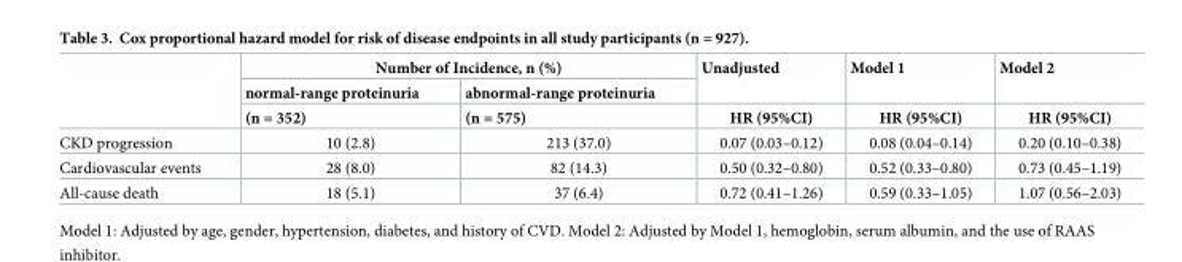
<table><thead><tr><td rowspan="3"></td><td colspan="2">Number of Incidence, n (%)</td><td rowspan="3">Unadjusted HR (95%CI)</td><td rowspan="3">Model 1 HR (95%CI)</td><td rowspan="3">Model 2 HR (95%CI)</td></tr><tr><td rowspan="2">normal-range proteinuria (n = 352)</td><td rowspan="2">abnormal-range proteinuria (n = 575)</td></tr><tr></tr></thead><tbody><tr><td>CKD progression</td><td>10 (2.8)</td><td>213 (37.0)</td><td>0.07 (0.03–0.12)</td><td>0.08 (0.04–0.14)</td><td>0.20 (0.10–0.38)</td></tr><tr><td>Cardiovascular events</td><td>28 (8.0)</td><td>82 (14.3)</td><td>0.50 (0.32–0.80)</td><td>0.52 (0.33–0.80)</td><td>0.73 (0.45–1.19)</td></tr><tr><td>All-cause death</td><td>18 (5.1)</td><td>37 (6.4)</td><td>0.72 (0.41–1.26)</td><td>0.59 (0.33–1.05)</td><td>1.07 (0.56–2.03)</td></tr></tbody></table>